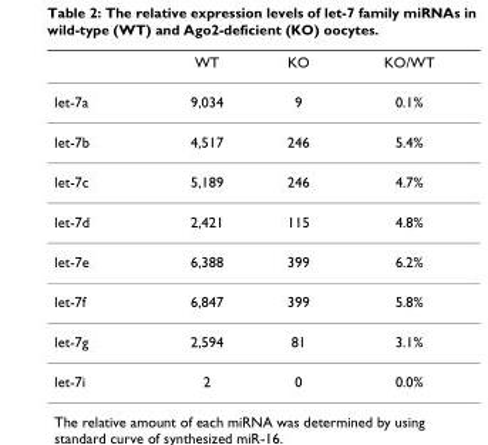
<table><thead><tr><td></td><td>WT</td><td>KO</td><td>KO/WT</td></tr></thead><tbody><tr><td>let-7a</td><td>9,034</td><td>9</td><td>0.1%</td></tr><tr><td>let-7b</td><td>4,517</td><td>246</td><td>5.4%</td></tr><tr><td>let-7c</td><td>5,189</td><td>246</td><td>4.7%</td></tr><tr><td>let-7d</td><td>2,421</td><td>115</td><td>4.8%</td></tr><tr><td>let-7e</td><td>6,388</td><td>399</td><td>6.2%</td></tr><tr><td>let-7f</td><td>6,847</td><td>399</td><td>5.8%</td></tr><tr><td>let-7g</td><td>2,594</td><td>81</td><td>3.1%</td></tr><tr><td>let-7i</td><td>2</td><td>0</td><td>0.0%</td></tr></tbody></table>